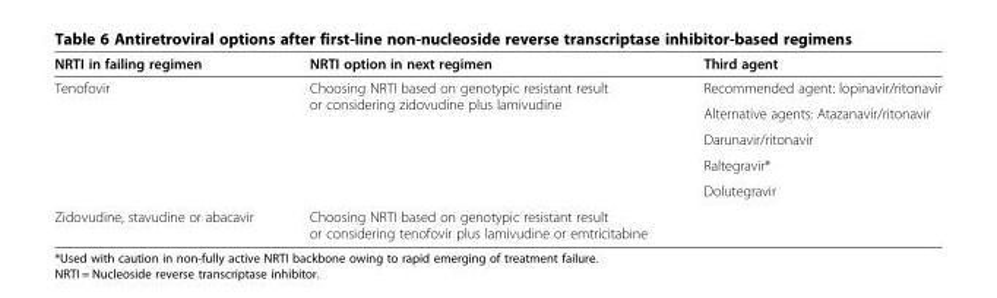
<table><thead><tr><td>NRTI in failing regimen</td><td>NRTI option in next regimen</td><td>Third agent</td></tr></thead><tbody><tr><td rowspan="5">Tenofovir</td><td rowspan="5">Choosing NRTI based on genotypic resistant result or considering zidovudine plus lamivudine</td><td>Recommended agent: lopinavir/ritonavir</td></tr><tr><td>Alternative agents: Atazanavir/ritonavir</td></tr><tr><td>Darunavir/ritonavir</td></tr><tr><td>Raltegravir*</td></tr><tr><td>Dolutegravir</td></tr><tr><td>Zidovudine, stavudine or abacavir</td><td>Choosing NRTI based on genotypic resistant result or considering tenofovir plus lamivudine or emtricitabine</td><td></td></tr></tbody></table>